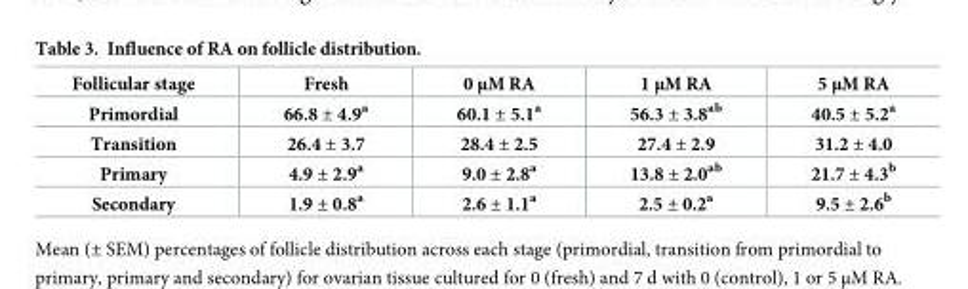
<table><thead><tr><td>Follicular stage</td><td>Fresh</td><td>0 μM RA</td><td>1 μM RA</td><td>5 μM RA</td></tr></thead><tbody><tr><td>Primordial</td><td>66.8 ± 4.9<sup>a</sup></td><td>60.1 ± 5.1<sup>a</sup></td><td>56.3 ± 3.8<sup>ab</sup></td><td>40.5 ± 5.2<sup>a</sup></td></tr><tr><td>Transition</td><td>26.4 ± 3.7</td><td>28.4 ± 2.5</td><td>27.4 ± 2.9</td><td>31.2 ± 4.0</td></tr><tr><td>Primary</td><td>4.9 ± 2.9<sup>a</sup></td><td>9.0 ± 2.8<sup>a</sup></td><td>13.8 ± 2.0<sup>ab</sup></td><td>21.7 ± 4.3<sup>b</sup></td></tr><tr><td>Secondary</td><td>1.9 ± 0.8<sup>a</sup></td><td>2.6 ± 1.1<sup>a</sup></td><td>2.5 ± 0.2<sup>a</sup></td><td>9.5 ± 2.6<sup>b</sup></td></tr></tbody></table>